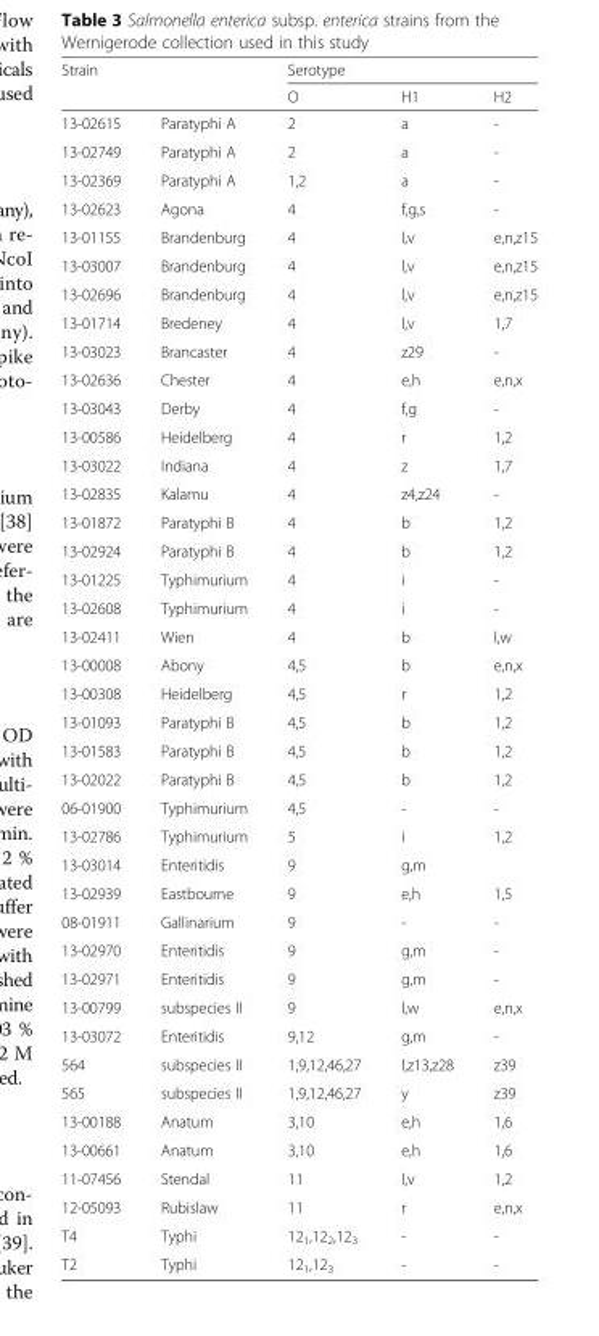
<table><thead><tr><td rowspan="2" colspan="2">Strain</td><td colspan="3">Serotype</td></tr><tr><td rowspan="2">O 2</td><td rowspan="2">H1 a</td><td rowspan="2">H2 -</td></tr><tr><td>13-02615</td><td>Paratyphi A</td></tr></thead><tbody><tr><td>13-02749</td><td>Paratyphi A</td><td>2</td><td>a</td><td>-</td></tr><tr><td>13-02369</td><td>Paratyphi A</td><td>1,2</td><td>a</td><td>-</td></tr><tr><td>13-02623</td><td>Agona</td><td>4</td><td>f,g,s</td><td>-</td></tr><tr><td>13-01155</td><td>Brandenburg</td><td>4</td><td>l,v</td><td>e,n,z15</td></tr><tr><td>13-03007</td><td>Brandenburg</td><td>4</td><td>l,v</td><td>e,n,z15</td></tr><tr><td>13-02696</td><td>Brandenburg</td><td>4</td><td>l,v</td><td>e,n,z15</td></tr><tr><td>13-01714</td><td>Bredeney</td><td>4</td><td>l,v</td><td>1,7</td></tr><tr><td>13-03023</td><td>Brancaster</td><td>4</td><td>z29</td><td>-</td></tr><tr><td>13-02636</td><td>Chester</td><td>4</td><td>e,h</td><td>e,n,x</td></tr><tr><td>13-03043</td><td>Derby</td><td>4</td><td>f,g</td><td>-</td></tr><tr><td>13-00586</td><td>Heidelberg</td><td>4</td><td>r</td><td>1,2</td></tr><tr><td>13-03022</td><td>Indiana</td><td>4</td><td>z</td><td>1,7</td></tr><tr><td>13-02835</td><td>Kalamu</td><td>4</td><td>z4,z24</td><td>-</td></tr><tr><td>13-01872</td><td>Paratyphi B</td><td>4</td><td>b</td><td>1,2</td></tr><tr><td>13-02924</td><td>Paratyphi B</td><td>4</td><td>b</td><td>1,2</td></tr><tr><td>13-01225</td><td>Typhimurium</td><td>4</td><td>i</td><td>-</td></tr><tr><td>13-02608</td><td>Typhimurium</td><td>4</td><td>i</td><td>-</td></tr><tr><td>13-02411</td><td>Wien</td><td>4</td><td>b</td><td>l,w</td></tr><tr><td>13-00008</td><td>Abony</td><td>4,5</td><td>b</td><td>e,n,x</td></tr><tr><td>13-00308</td><td>Heidelberg</td><td>4,5</td><td>r</td><td>1,2</td></tr><tr><td>13-01093</td><td>Paratyphi B</td><td>4,5</td><td>b</td><td>1,2</td></tr><tr><td>13-01583</td><td>Paratyphi B</td><td>4,5</td><td>b</td><td>1,2</td></tr><tr><td>13-02022</td><td>Paratyphi B</td><td>4,5</td><td>b</td><td>1,2</td></tr><tr><td>06-01900</td><td>Typhimurium</td><td>4,5</td><td>-</td><td>-</td></tr><tr><td>13-02786</td><td>Typhimurium</td><td>5</td><td>i</td><td>1,2</td></tr><tr><td>13-03014</td><td>Enteritidis</td><td>9</td><td>g,m</td><td></td></tr><tr><td>13-02939</td><td>Eastbourne</td><td>9</td><td>e,h</td><td>1,5</td></tr><tr><td>08-01911</td><td>Gallinarium</td><td>9</td><td>-</td><td>-</td></tr><tr><td>13-02970</td><td>Enteritidis</td><td>9</td><td>g,m</td><td>-</td></tr><tr><td>13-02971</td><td>Enteritidis</td><td>9</td><td>g,m</td><td>-</td></tr><tr><td>13-00799</td><td>subspecies II</td><td>9</td><td>l,w</td><td>e,n,x</td></tr><tr><td>13-03072</td><td>Enteritidis</td><td>9,12</td><td>g,m</td><td>-</td></tr><tr><td>564</td><td>subspecies II</td><td>1,9,12,46,27</td><td>l,z13,z28</td><td>z39</td></tr><tr><td>565</td><td>subspecies II</td><td>1,9,12,46,27</td><td>y</td><td>z39</td></tr><tr><td>13-00188</td><td>Anatum</td><td>3,10</td><td>e,h</td><td>1,6</td></tr><tr><td>13-00661</td><td>Anatum</td><td>3,10</td><td>e,h</td><td>1,6</td></tr><tr><td>11-07456</td><td>Stendal</td><td>11</td><td>l,v</td><td>1,2</td></tr><tr><td>12-05093</td><td>Rubislaw</td><td>11</td><td>r</td><td>e,n,x</td></tr><tr><td>T4</td><td>Typhi</td><td>12<sub>1</sub>,12<sub>2</sub>,12<sub>3</sub></td><td>-</td><td>-</td></tr><tr><td>T2</td><td>Typhi</td><td>12<sub>1</sub>,12<sub>3</sub></td><td>-</td><td>-</td></tr></tbody></table>